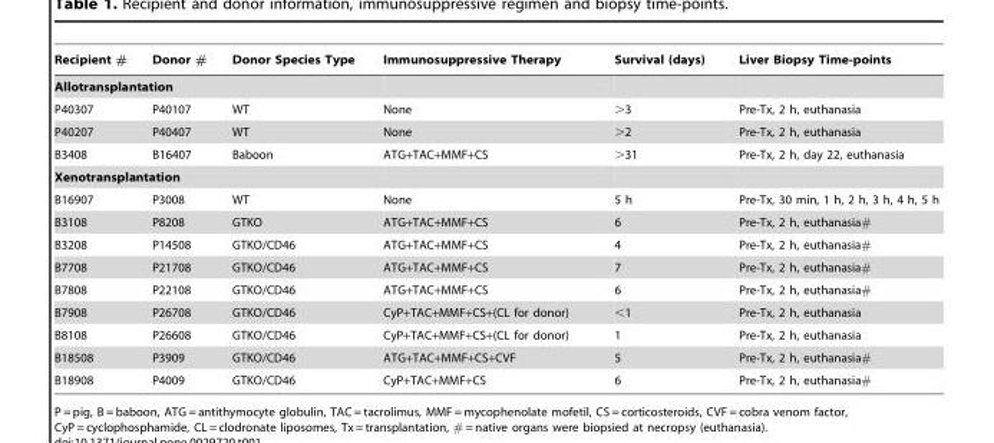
<table><thead><tr><td>Recipient #</td><td>Donor #</td><td>Donor Species Type</td><td>Immunosuppressive Therapy</td><td>Survival (days)</td><td>Liver Biopsy Time-points</td></tr></thead><tbody><tr><td colspan="6">Allotransplantation</td></tr><tr><td>P40307</td><td>P40107</td><td>WT</td><td>None</td><td>&gt;3</td><td>Pre-Tx, 2 h, euthanasia</td></tr><tr><td>P40207</td><td>P40407</td><td>WT</td><td>None</td><td>&gt;2</td><td>Pre-Tx, 2 h, euthanasia</td></tr><tr><td>B3408</td><td>B16407</td><td>Baboon</td><td>ATG+TAC+MMF+CS</td><td>&gt;31</td><td>Pre-Tx, 2 h, day 22, euthanasia</td></tr><tr><td colspan="6">Xenotransplantation</td></tr><tr><td>B16907</td><td>P3008</td><td>WT</td><td>None</td><td>5 h</td><td>Pre-Tx, 30 min, 1 h, 2 h, 3 h, 4 h, 5 h</td></tr><tr><td>B3108</td><td>P8208</td><td>GTKO</td><td>ATG+TAC+MMF+CS</td><td>6</td><td>Pre-Tx, 2 h, euthanasia#</td></tr><tr><td>B3208</td><td>P14508</td><td>GTKO/CD46</td><td>ATG+TAC+MMF+CS</td><td>4</td><td>Pre-Tx, 2 h, euthanasia#</td></tr><tr><td>B7708</td><td>P21708</td><td>GTKO/CD46</td><td>ATG+TAC+MMF+CS</td><td>7</td><td>Pre-Tx, 2 h, euthanasia#</td></tr><tr><td>B7808</td><td>P22108</td><td>GTKO/CD46</td><td>ATG+TAC+MMF+CS</td><td>6</td><td>Pre-Tx, 2 h, euthanasia#</td></tr><tr><td>B7908</td><td>P26708</td><td>GTKO/CD46</td><td>CyP+TAC+MMF+CS+(CL for donor)</td><td>&lt;1</td><td>Pre-Tx, 2 h, euthanasia</td></tr><tr><td>B8108</td><td>P26608</td><td>GTKO/CD46</td><td>CyP+TAC+MMF+CS+(CL for donor)</td><td>1</td><td>Pre-Tx, 2 h, euthanasia</td></tr><tr><td>B18508</td><td>P3909</td><td>GTKO/CD46</td><td>ATG+TAC+MMF+CS+CVF</td><td>5</td><td>Pre-Tx, 2 h, euthanasia#</td></tr><tr><td>B18908</td><td>P4009</td><td>GTKO/CD46</td><td>CyP+TAC+MMF+CS</td><td>6</td><td>Pre-Tx, 2 h, euthanasia#</td></tr></tbody></table>